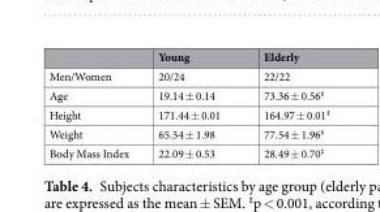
<table><thead><tr><td></td><td>Young</td><td>Elderly</td></tr></thead><tbody><tr><td>Men/Women</td><td>20/24</td><td>22/22</td></tr><tr><td>Age</td><td>19.14 ± 0.14</td><td>73.36 ± 0.56<sup>‡</sup></td></tr><tr><td>Height</td><td>171.44 ± 0.01</td><td>164.97 ± 0.01<sup>‡</sup></td></tr><tr><td>Weight</td><td>65.54 ± 1.98</td><td>77.54 ± 1.96<sup>‡</sup></td></tr><tr><td>Body Mass Index</td><td>22.09 ± 0.53</td><td>28.49 ± 0.70<sup>‡</sup></td></tr></tbody></table>